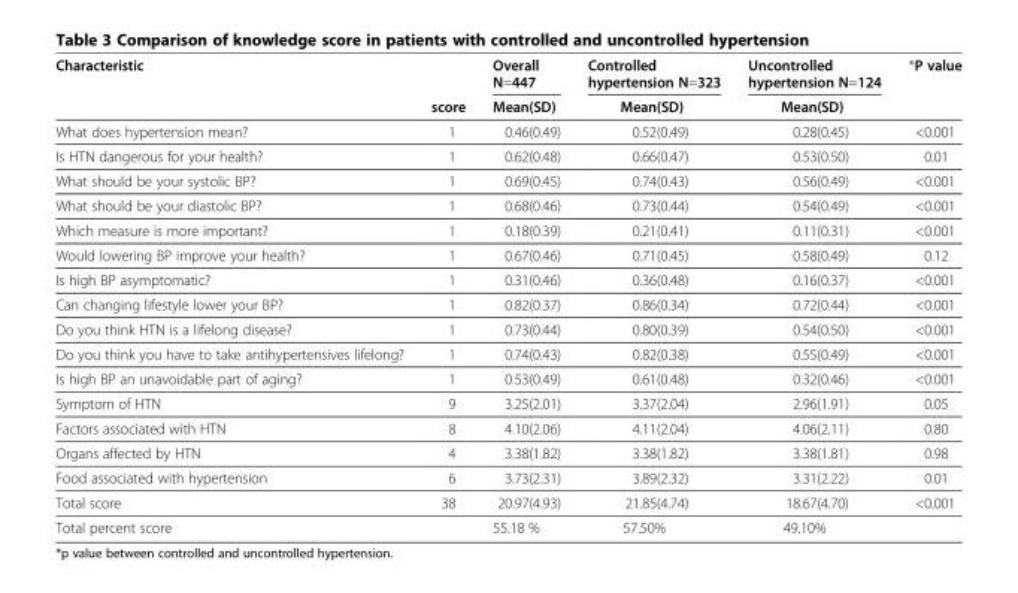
<table><thead><tr><td rowspan="2">Characteristic</td><td rowspan="2">score</td><td rowspan="2">Overall N=447 Mean(SD)</td><td rowspan="2">Controlled hypertension N=323 Mean(SD)</td><td rowspan="2">Uncontrolled hypertension N=124 Mean(SD)</td><td rowspan="2">*P value</td></tr><tr></tr></thead><tbody><tr><td>What does hypertension mean?</td><td>1</td><td>0.46(0.49)</td><td>0.52(0.49)</td><td>0.28(0.45)</td><td>&lt;0.001</td></tr><tr><td>Is HTN dangerous for your health?</td><td>1</td><td>0.62(0.48)</td><td>0.66(0.47)</td><td>0.53(0.50)</td><td>0.01</td></tr><tr><td>What should be your systolic BP?</td><td>1</td><td>0.69(0.45)</td><td>0.74(0.43)</td><td>0.56(0.49)</td><td>&lt;0.001</td></tr><tr><td>What should be your diastolic BP?</td><td>1</td><td>0.68(0.46)</td><td>0.73(0.44)</td><td>0.54(0.49)</td><td>&lt;0.001</td></tr><tr><td>Which measure is more important?</td><td>1</td><td>0.18(0.39)</td><td>0.21(0.41)</td><td>0.11(0.31)</td><td>&lt;0.001</td></tr><tr><td>Would lowering BP improve your health?</td><td>1</td><td>0.67(0.46)</td><td>0.71(0.45)</td><td>0.58(0.49)</td><td>0.12</td></tr><tr><td>Is high BP asymptomatic?</td><td>1</td><td>0.31(0.46)</td><td>0.36(0.48)</td><td>0.16(0.37)</td><td>&lt;0.001</td></tr><tr><td>Can changing lifestyle lower your BP?</td><td>1</td><td>0.82(0.37)</td><td>0.86(0.34)</td><td>0.72(0.44)</td><td>&lt;0.001</td></tr><tr><td>Do you think HTN is a lifelong disease?</td><td>1</td><td>0.73(0.44)</td><td>0.80(0.39)</td><td>0.54(0.50)</td><td>&lt;0.001</td></tr><tr><td>Do you think you have to take antihypertensives lifelong?</td><td>1</td><td>0.74(0.43)</td><td>0.82(0.38)</td><td>0.55(0.49)</td><td>&lt;0.001</td></tr><tr><td>Is high BP an unavoidable part of aging?</td><td>1</td><td>0.53(0.49)</td><td>0.61(0.48)</td><td>0.32(0.46)</td><td>&lt;0.001</td></tr><tr><td>Symptom of HTN</td><td>9</td><td>3.25(2.01)</td><td>3.37(2.04)</td><td>2.96(1.91)</td><td>0.05</td></tr><tr><td>Factors associated with HTN</td><td>8</td><td>4.10(2.06)</td><td>4.11(2.04)</td><td>4.06(2.11)</td><td>0.80</td></tr><tr><td>Organs affected by HTN</td><td>4</td><td>3.38(1.82)</td><td>3.38(1.82)</td><td>3.38(1.81)</td><td>0.98</td></tr><tr><td>Food associated with hypertension</td><td>6</td><td>3.73(2.31)</td><td>3.89(2.32)</td><td>3.31(2.22)</td><td>0.01</td></tr><tr><td>Total score</td><td>38</td><td>20.97(4.93)</td><td>21.85(4.74)</td><td>18.67(4.70)</td><td>&lt;0.001</td></tr><tr><td>Total percent score</td><td></td><td>55.18 %</td><td>57.50%</td><td>49.10%</td><td></td></tr></tbody></table>